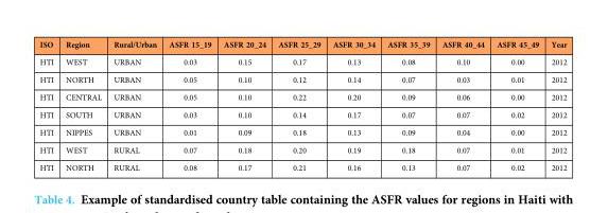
<table><thead><tr><td>ISO</td><td>Region</td><td>Rural/Urban</td><td>ASFR 15_19</td><td>ASFR 20_24</td><td>ASFR 25_29</td><td>ASFR 30_34</td><td>ASFR 35_39</td><td>ASFR 40_44</td><td>ASFR 45_49</td><td>Year</td></tr></thead><tbody><tr><td>HTI</td><td>WEST</td><td>URBAN</td><td>0.03</td><td>0.15</td><td>0.17</td><td>0.13</td><td>0.08</td><td>0.10</td><td>0.00</td><td>2012</td></tr><tr><td>HTI</td><td>NORTH</td><td>URBAN</td><td>0.05</td><td>0.10</td><td>0.12</td><td>0.14</td><td>0.07</td><td>0.03</td><td>0.01</td><td>2012</td></tr><tr><td>HTI</td><td>CENTRAL</td><td>URBAN</td><td>0.05</td><td>0.10</td><td>0.22</td><td>0.20</td><td>0.09</td><td>0.06</td><td>0.00</td><td>2012</td></tr><tr><td>HTI</td><td>SOUTH</td><td>URBAN</td><td>0.03</td><td>0.10</td><td>0.14</td><td>0.17</td><td>0.07</td><td>0.07</td><td>0.02</td><td>2012</td></tr><tr><td>HTI</td><td>NIPPES</td><td>URBAN</td><td>0.01</td><td>0.09</td><td>0.18</td><td>0.13</td><td>0.09</td><td>0.04</td><td>0.00</td><td>2012</td></tr><tr><td>HTI</td><td>WEST</td><td>RURAL</td><td>0.07</td><td>0.18</td><td>0.20</td><td>0.19</td><td>0.18</td><td>0.07</td><td>0.01</td><td>2012</td></tr><tr><td>HTI</td><td>NORTH</td><td>RURAL</td><td>0.08</td><td>0.17</td><td>0.21</td><td>0.16</td><td>0.13</td><td>0.07</td><td>0.02</td><td>2012</td></tr></tbody></table>